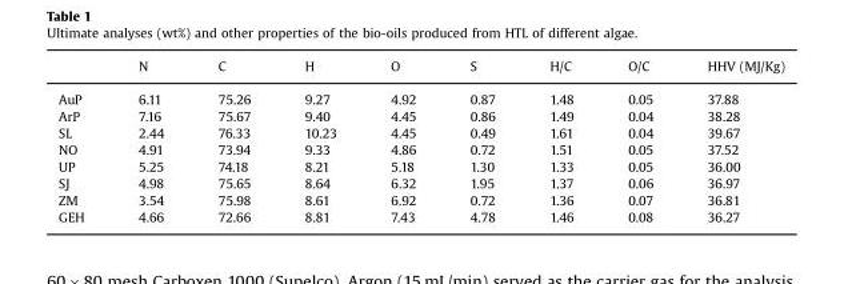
<table><thead><tr><td></td><td>N</td><td>C</td><td>H</td><td>O</td><td>S</td><td>H/C</td><td>O/C</td><td>HHV (MJ/Kg)</td></tr></thead><tbody><tr><td>AuP</td><td>6.11</td><td>75.26</td><td>9.27</td><td>4.92</td><td>0.87</td><td>1.48</td><td>0.05</td><td>37.88</td></tr><tr><td>ArP</td><td>7.16</td><td>75.67</td><td>9.40</td><td>4.45</td><td>0.86</td><td>1.49</td><td>0.04</td><td>38.28</td></tr><tr><td>SL</td><td>2.44</td><td>76.33</td><td>10.23</td><td>4.45</td><td>0.49</td><td>1.61</td><td>0.04</td><td>39.67</td></tr><tr><td>NO</td><td>4.91</td><td>73.94</td><td>9.33</td><td>4.86</td><td>0.72</td><td>1.51</td><td>0.05</td><td>37.52</td></tr><tr><td>UP</td><td>5.25</td><td>74.18</td><td>8.21</td><td>5.18</td><td>1.30</td><td>1.33</td><td>0.05</td><td>36.00</td></tr><tr><td>SJ</td><td>4.98</td><td>75.65</td><td>8.64</td><td>6.32</td><td>1.95</td><td>1.37</td><td>0.06</td><td>36.97</td></tr><tr><td>ZM</td><td>3.54</td><td>75.98</td><td>8.61</td><td>6.92</td><td>0.72</td><td>1.36</td><td>0.07</td><td>36.81</td></tr><tr><td>GEH</td><td>4.66</td><td>72.66</td><td>8.81</td><td>7.43</td><td>4.78</td><td>1.46</td><td>0.08</td><td>36.27</td></tr></tbody></table>